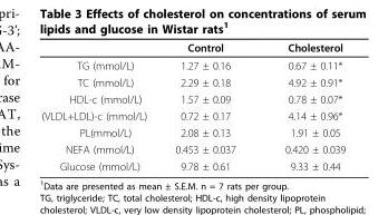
<table><thead><tr><td></td><td>Control</td><td>Cholesterol</td></tr></thead><tbody><tr><td>TG (mmol/L)</td><td>1.27 ± 0.16</td><td>0.67 ± 0.11*</td></tr><tr><td>TC (mmol/L)</td><td>2.29 ± 0.18</td><td>4.92 ± 0.91*</td></tr><tr><td>HDL-c (mmol/L)</td><td>1.57 ± 0.09</td><td>0.78 ± 0.07*</td></tr><tr><td>(VLDL+LDL)-c (mmol/L)</td><td>0.72 ± 0.17</td><td>4.14 ± 0.96*</td></tr><tr><td>PL(mmol/L)</td><td>2.08 ± 0.13</td><td>1.91 ± 0.05</td></tr><tr><td>NEFA (mmol/L)</td><td>0.453 ± 0.037</td><td>0.420 ± 0.039</td></tr><tr><td>Glucose (mmol/L)</td><td>9.78 ± 0.61</td><td>9.33 ± 0.44</td></tr></tbody></table>